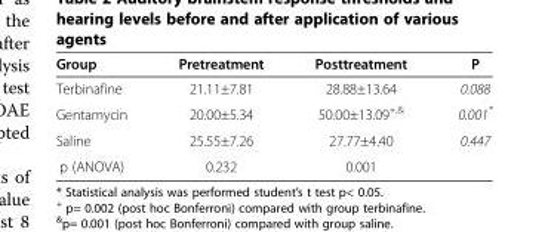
<table><thead><tr><td>Group</td><td>Pretreatment</td><td>Posttreatment</td><td>P</td></tr></thead><tbody><tr><td>Terbinafine</td><td>21.11±7.81</td><td>28.88±13.64</td><td>0.088</td></tr><tr><td>Gentamycin</td><td>20.00±5.34</td><td>50.00±13.09<sup>+,&amp;</sup></td><td>0.001*</td></tr><tr><td>Saline</td><td>25.55±7.26</td><td>27.77±4.40</td><td>0.447</td></tr><tr><td>p (ANOVA)</td><td>0.232</td><td>0.001</td><td></td></tr></tbody></table>